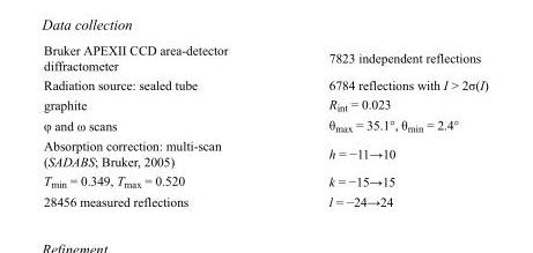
<table><tbody><tr><td>Bruker APEXII CCD area-detector diffractometer</td><td>7823 independent reflections</td></tr><tr><td>Radiation source: sealed tube</td><td>6784 reflections with I &gt; 2σ(I)</td></tr><tr><td>graphite</td><td>R<sub>int</sub> = 0.023</td></tr><tr><td>φ and ω scans</td><td>θ<sub>max</sub> = 35.1°, θ<sub>min</sub> = 2.4°</td></tr><tr><td>Absorption correction: multi-scan (SADABS; Bruker, 2005)</td><td>h = −11→10</td></tr><tr><td>T<sub>min</sub> = 0.349, T<sub>max</sub> = 0.520</td><td>k = −15→15</td></tr><tr><td>28456 measured reflections</td><td>l = −24→24</td></tr></tbody></table>